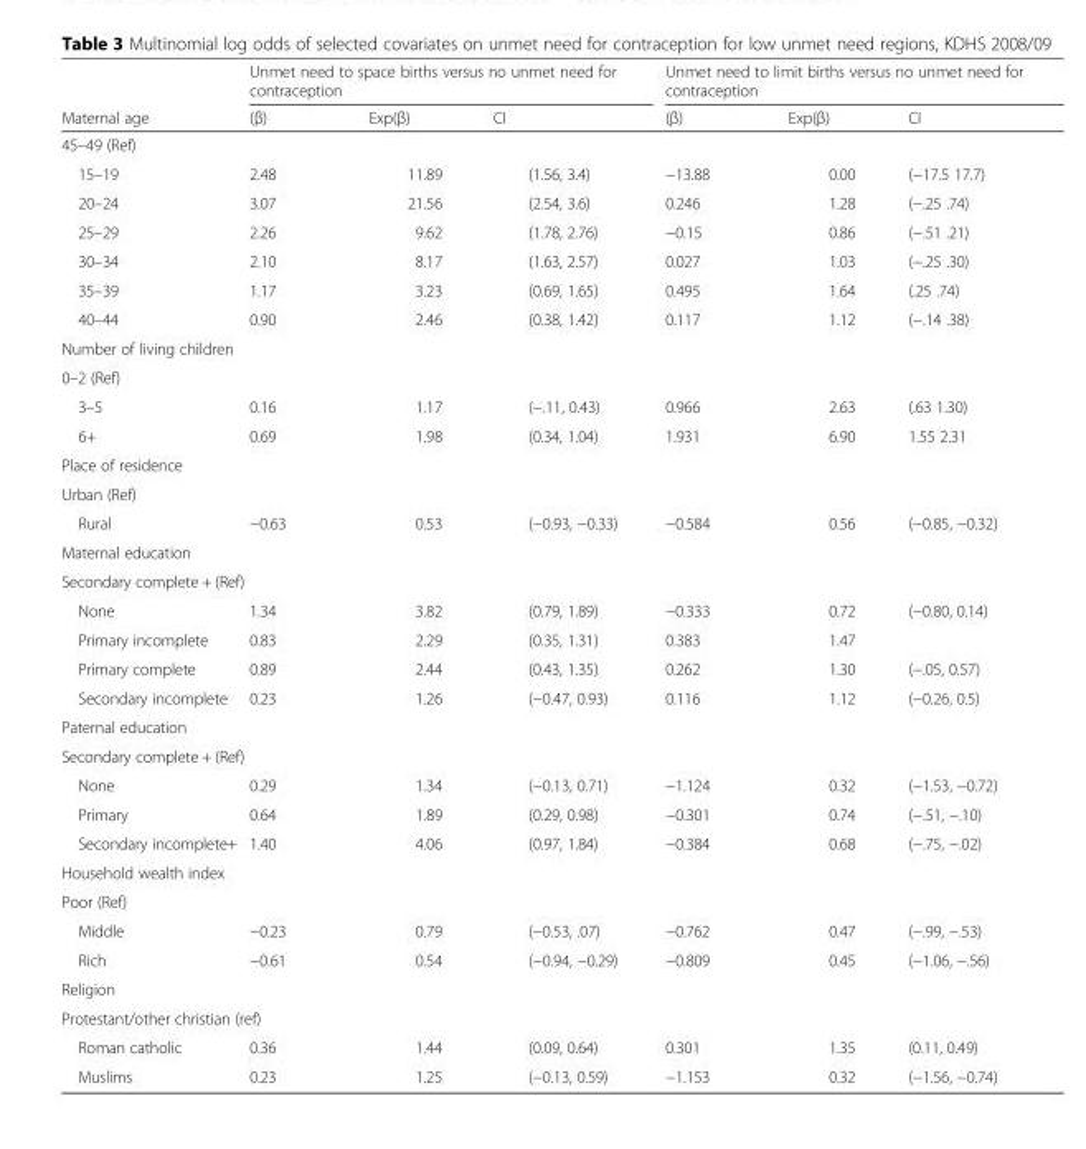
<table><thead><tr><td rowspan="2">Maternal age</td><td colspan="3">Unmet need to space births versus no unmet need for contraception</td><td colspan="3">Unmet need to limit births versus no unmet need for contraception</td></tr><tr><td>(β)</td><td>Exp(β)</td><td>CI</td><td>(β)</td><td>Exp(β)</td><td>CI</td></tr></thead><tbody><tr><td colspan="7">45–49 (Ref)</td></tr><tr><td>15–19</td><td>2.48</td><td>11.89</td><td>(1.56, 3.4)</td><td>−13.88</td><td>0.00</td><td>(−17.5 17.7)</td></tr><tr><td>20–24</td><td>3.07</td><td>21.56</td><td>(2.54, 3.6)</td><td>0.246</td><td>1.28</td><td>(−.25 .74)</td></tr><tr><td>25–29</td><td>2.26</td><td>9.62</td><td>(1.78, 2.76)</td><td>−0.15</td><td>0.86</td><td>(−.51 .21)</td></tr><tr><td>30–34</td><td>2.10</td><td>8.17</td><td>(1.63, 2.57)</td><td>0.027</td><td>1.03</td><td>(−.25 .30)</td></tr><tr><td>35–39</td><td>1.17</td><td>3.23</td><td>(0.69, 1.65)</td><td>0.495</td><td>1.64</td><td>(.25 .74)</td></tr><tr><td>40–44</td><td>0.90</td><td>2.46</td><td>(0.38, 1.42)</td><td>0.117</td><td>1.12</td><td>(−.14 .38)</td></tr><tr><td colspan="7">Number of living children</td></tr><tr><td colspan="7">0–2 (Ref)</td></tr><tr><td>3–5</td><td>0.16</td><td>1.17</td><td>(−.11, 0.43)</td><td>0.966</td><td>2.63</td><td>(.63 1.30)</td></tr><tr><td>6+</td><td>0.69</td><td>1.98</td><td>(0.34, 1.04)</td><td>1.931</td><td>6.90</td><td>1.55 2.31</td></tr><tr><td colspan="7">Place of residence</td></tr><tr><td colspan="7">Urban (Ref)</td></tr><tr><td>Rural</td><td>−0.63</td><td>0.53</td><td>(−0.93, −0.33)</td><td>−0.584</td><td>0.56</td><td>(−0.85, −0.32)</td></tr><tr><td colspan="7">Maternal education</td></tr><tr><td colspan="7">Secondary complete + (Ref)</td></tr><tr><td>None</td><td>1.34</td><td>3.82</td><td>(0.79, 1.89)</td><td>−0.333</td><td>0.72</td><td>(−0.80, 0.14)</td></tr><tr><td>Primary incomplete</td><td>0.83</td><td>2.29</td><td>(0.35, 1.31)</td><td>0.383</td><td>1.47</td><td></td></tr><tr><td>Primary complete</td><td>0.89</td><td>2.44</td><td>(0.43, 1.35)</td><td>0.262</td><td>1.30</td><td>(−.05, 0.57)</td></tr><tr><td>Secondary incomplete</td><td>0.23</td><td>1.26</td><td>(−0.47, 0.93)</td><td>0.116</td><td>1.12</td><td>(−0.26, 0.5)</td></tr><tr><td colspan="7">Paternal education</td></tr><tr><td colspan="7">Secondary complete + (Ref)</td></tr><tr><td>None</td><td>0.29</td><td>1.34</td><td>(−0.13, 0.71)</td><td>−1.124</td><td>0.32</td><td>(−1.53, −0.72)</td></tr><tr><td>Primary</td><td>0.64</td><td>1.89</td><td>(0.29, 0.98)</td><td>−0.301</td><td>0.74</td><td>(−.51, −.10)</td></tr><tr><td>Secondary incomplete+</td><td>1.40</td><td>4.06</td><td>(0.97, 1.84)</td><td>−0.384</td><td>0.68</td><td>(−.75, −.02)</td></tr><tr><td colspan="7">Household wealth index</td></tr><tr><td colspan="7">Poor (Ref)</td></tr><tr><td>Middle</td><td>−0.23</td><td>0.79</td><td>(−0.53, .07)</td><td>−0.762</td><td>0.47</td><td>(−.99, −.53)</td></tr><tr><td>Rich</td><td>−0.61</td><td>0.54</td><td>(−0.94, −0.29)</td><td>−0.809</td><td>0.45</td><td>(−1.06, −.56)</td></tr><tr><td colspan="7">Religion</td></tr><tr><td colspan="7">Protestant/other christian (ref)</td></tr><tr><td>Roman catholic</td><td>0.36</td><td>1.44</td><td>(0.09, 0.64)</td><td>0.301</td><td>1.35</td><td>(0.11, 0.49)</td></tr><tr><td>Muslims</td><td>0.23</td><td>1.25</td><td>(−0.13, 0.59)</td><td>−1.153</td><td>0.32</td><td>(−1.56, −0.74)</td></tr></tbody></table>